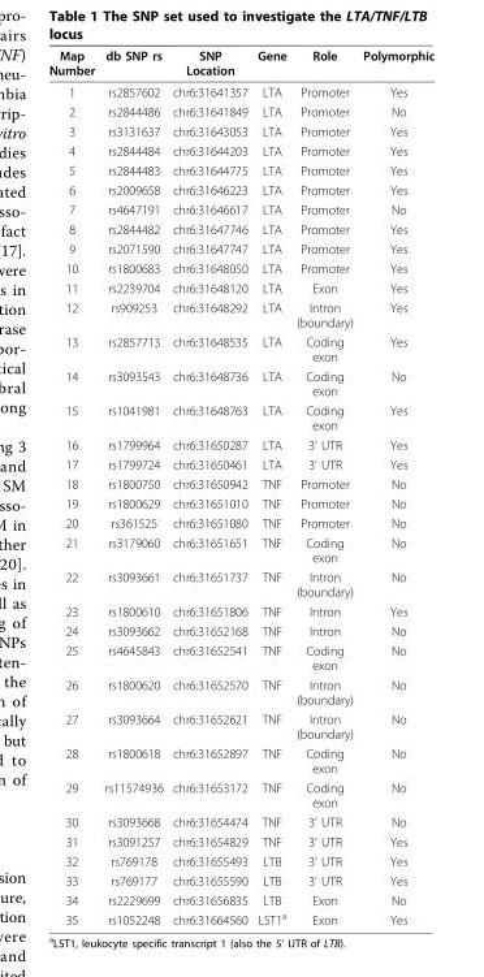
<table><thead><tr><td>Map Number</td><td>db SNP rs</td><td>SNP Location</td><td>Gene</td><td>Role</td><td>Polymorphic</td></tr></thead><tbody><tr><td>1</td><td>rs2857602</td><td>chr6:31641357</td><td>LTA</td><td>Promoter</td><td>Yes</td></tr><tr><td>2</td><td>rs2844486</td><td>chr6:31641849</td><td>LTA</td><td>Promoter</td><td>No</td></tr><tr><td>3</td><td>rs3131637</td><td>chr6:31643053</td><td>LTA</td><td>Promoter</td><td>Yes</td></tr><tr><td>4</td><td>rs2844484</td><td>chr6:31644203</td><td>LTA</td><td>Promoter</td><td>Yes</td></tr><tr><td>5</td><td>rs2844483</td><td>chr6:31644775</td><td>LTA</td><td>Promoter</td><td>Yes</td></tr><tr><td>6</td><td>rs2009658</td><td>chr6:31646223</td><td>LTA</td><td>Promoter</td><td>Yes</td></tr><tr><td>7</td><td>rs4647191</td><td>chr6:31646617</td><td>LTA</td><td>Promoter</td><td>No</td></tr><tr><td>8</td><td>rs2844482</td><td>chr6:31647746</td><td>LTA</td><td>Promoter</td><td>Yes</td></tr><tr><td>9</td><td>rs2071590</td><td>chr6:31647747</td><td>LTA</td><td>Promoter</td><td>Yes</td></tr><tr><td>10</td><td>rs1800683</td><td>chr6:31648050</td><td>LTA</td><td>Promoter</td><td>Yes</td></tr><tr><td>11</td><td>rs2239704</td><td>chr6:31648120</td><td>LTA</td><td>Exon</td><td>Yes</td></tr><tr><td>12</td><td>rs909253</td><td>chr6:31648292</td><td>LTA</td><td>Intron (boundary)</td><td>Yes</td></tr><tr><td>13</td><td>rs2857713</td><td>chr6:31648535</td><td>LTA</td><td>Coding exon</td><td>Yes</td></tr><tr><td>14</td><td>rs3093543</td><td>chr6:31648736</td><td>LTA</td><td>Coding exon</td><td>No</td></tr><tr><td>15</td><td>rs1041981</td><td>chr6:31648763</td><td>LTA</td><td>Coding exon</td><td>Yes</td></tr><tr><td>16</td><td>rs1799964</td><td>chr6:31650287</td><td>LTA</td><td>3’ UTR</td><td>Yes</td></tr><tr><td>17</td><td>rs1799724</td><td>chr6:31650461</td><td>LTA</td><td>3’ UTR</td><td>Yes</td></tr><tr><td>18</td><td>rs1800750</td><td>chr6:31650942</td><td>TNF</td><td>Promoter</td><td>No</td></tr><tr><td>19</td><td>rs1800629</td><td>chr6:31651010</td><td>TNF</td><td>Promoter</td><td>No</td></tr><tr><td>20</td><td>rs361525</td><td>chr6:31651080</td><td>TNF</td><td>Promoter</td><td>No</td></tr><tr><td>21</td><td>rs3179060</td><td>chr6:31651651</td><td>TNF</td><td>Coding exon</td><td>No</td></tr><tr><td>22</td><td>rs3093661</td><td>chr6:31651737</td><td>TNF</td><td>Intron (boundary)</td><td>No</td></tr><tr><td>23</td><td>rs1800610</td><td>chr6:31651806</td><td>TNF</td><td>Intron</td><td>Yes</td></tr><tr><td>24</td><td>rs3093662</td><td>chr6:31652168</td><td>TNF</td><td>Intron</td><td>No</td></tr><tr><td>25</td><td>rs4645843</td><td>chr6:31652541</td><td>TNF</td><td>Coding exon</td><td>No</td></tr><tr><td>26</td><td>rs1800620</td><td>chr6:31652570</td><td>TNF</td><td>Intron (boundary)</td><td>No</td></tr><tr><td>27</td><td>rs3093664</td><td>chr6:31652621</td><td>TNF</td><td>Intron (boundary)</td><td>No</td></tr><tr><td>28</td><td>rs1800618</td><td>chr6:31652897</td><td>TNF</td><td>Coding exon</td><td>No</td></tr><tr><td>29</td><td>rs11574936</td><td>chr6:31653172</td><td>TNF</td><td>Coding exon</td><td>No</td></tr><tr><td>30</td><td>rs3093668</td><td>chr6:31654474</td><td>TNF</td><td>3’ UTR</td><td>No</td></tr><tr><td>31</td><td>rs3091257</td><td>chr6:31654829</td><td>TNF</td><td>3’ UTR</td><td>Yes</td></tr><tr><td>32</td><td>rs769178</td><td>chr6:31655493</td><td>LTB</td><td>3’ UTR</td><td>Yes</td></tr><tr><td>33</td><td>rs769177</td><td>chr6:31655590</td><td>LTB</td><td>3’ UTR</td><td>Yes</td></tr><tr><td>34</td><td>rs2229699</td><td>chr6:31656835</td><td>LTB</td><td>Exon</td><td>No</td></tr><tr><td>35</td><td>rs1052248</td><td>chr6:31664560</td><td>LST1<sup>a</sup></td><td>Exon</td><td>Yes</td></tr></tbody></table>